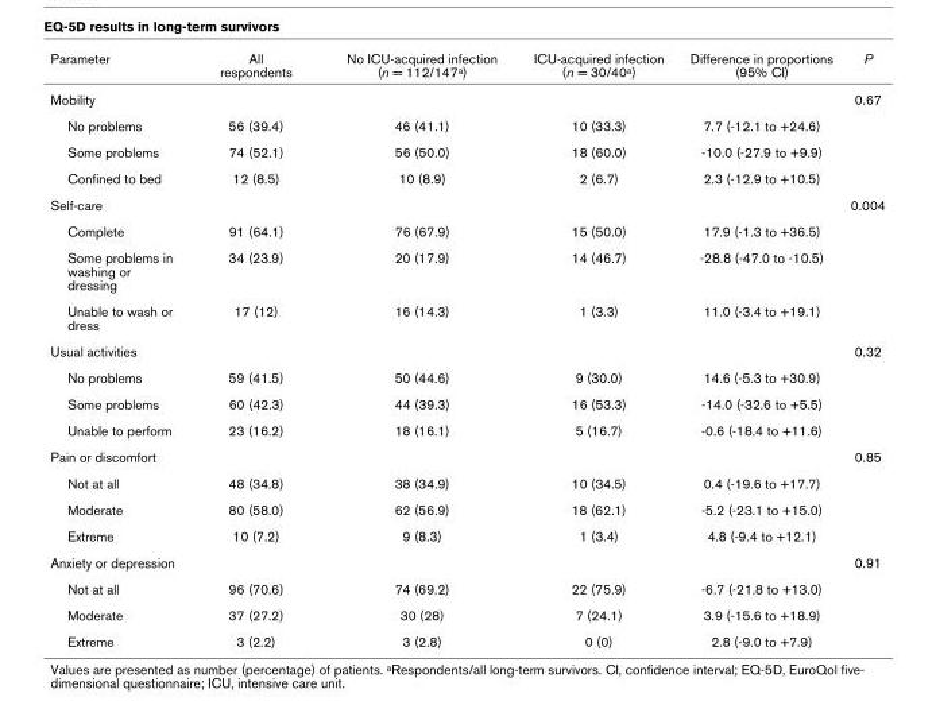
<table><thead><tr><td>Parameter</td><td>All respondents</td><td>No ICU-acquired infection (n = 112/147<sup>a</sup>)</td><td>ICU-acquired infection (n = 30/40<sup>a</sup>)</td><td>Difference in proportions (95% CI)</td><td>P</td></tr></thead><tbody><tr><td>Mobility</td><td></td><td></td><td></td><td></td><td>0.67</td></tr><tr><td>No problems</td><td>56 (39.4)</td><td>46 (41.1)</td><td>10 (33.3)</td><td>7.7 (-12.1 to +24.6)</td><td></td></tr><tr><td>Some problems</td><td>74 (52.1)</td><td>56 (50.0)</td><td>18 (60.0)</td><td>-10.0 (-27.9 to +9.9)</td><td></td></tr><tr><td>Confined to bed</td><td>12 (8.5)</td><td>10 (8.9)</td><td>2 (6.7)</td><td>2.3 (-12.9 to +10.5)</td><td></td></tr><tr><td>Self-care</td><td></td><td></td><td></td><td></td><td>0.004</td></tr><tr><td>Complete</td><td>91 (64.1)</td><td>76 (67.9)</td><td>15 (50.0)</td><td>17.9 (-1.3 to +36.5)</td><td></td></tr><tr><td>Some problems in washing or dressing</td><td>34 (23.9)</td><td>20 (17.9)</td><td>14 (46.7)</td><td>-28.8 (-47.0 to -10.5)</td><td></td></tr><tr><td>Unable to wash or dress</td><td>17 (12)</td><td>16 (14.3)</td><td>1 (3.3)</td><td>11.0 (-3.4 to +19.1)</td><td></td></tr><tr><td>Usual activities</td><td></td><td></td><td></td><td></td><td>0.32</td></tr><tr><td>No problems</td><td>59 (41.5)</td><td>50 (44.6)</td><td>9 (30.0)</td><td>14.6 (-5.3 to +30.9)</td><td></td></tr><tr><td>Some problems</td><td>60 (42.3)</td><td>44 (39.3)</td><td>16 (53.3)</td><td>-14.0 (-32.6 to +5.5)</td><td></td></tr><tr><td>Unable to perform</td><td>23 (16.2)</td><td>18 (16.1)</td><td>5 (16.7)</td><td>-0.6 (-18.4 to +11.6)</td><td></td></tr><tr><td>Pain or discomfort</td><td></td><td></td><td></td><td></td><td>0.85</td></tr><tr><td>Not at all</td><td>48 (34.8)</td><td>38 (34.9)</td><td>10 (34.5)</td><td>0.4 (-19.6 to +17.7)</td><td></td></tr><tr><td>Moderate</td><td>80 (58.0)</td><td>62 (56.9)</td><td>18 (62.1)</td><td>-5.2 (-23.1 to +15.0)</td><td></td></tr><tr><td>Extreme</td><td>10 (7.2)</td><td>9 (8.3)</td><td>1 (3.4)</td><td>4.8 (-9.4 to +12.1)</td><td></td></tr><tr><td>Anxiety or depression</td><td></td><td></td><td></td><td></td><td>0.91</td></tr><tr><td>Not at all</td><td>96 (70.6)</td><td>74 (69.2)</td><td>22 (75.9)</td><td>-6.7 (-21.8 to +13.0)</td><td></td></tr><tr><td>Moderate</td><td>37 (27.2)</td><td>30 (28)</td><td>7 (24.1)</td><td>3.9 (-15.6 to +18.9)</td><td></td></tr><tr><td>Extreme</td><td>3 (2.2)</td><td>3 (2.8)</td><td>0 (0)</td><td>2.8 (-9.0 to +7.9)</td><td></td></tr></tbody></table>